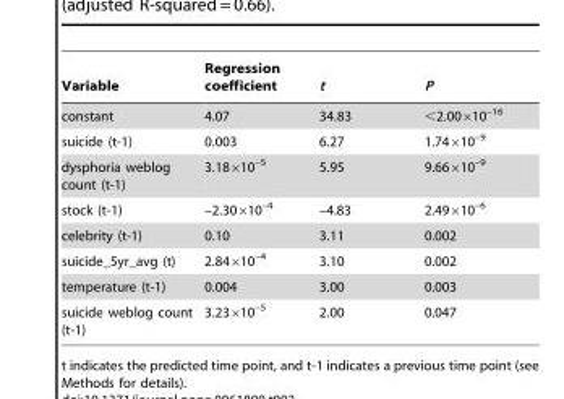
<table><thead><tr><td>Variable</td><td>Regression coefficient</td><td>t</td><td>P</td></tr></thead><tbody><tr><td>constant</td><td>4.07</td><td>34.83</td><td>&lt;2.00×10<sup>–16</sup></td></tr><tr><td>suicide (t-1)</td><td>0.003</td><td>6.27</td><td>1.74×10<sup>–9</sup></td></tr><tr><td>dysphoria weblog count (t-1)</td><td>3.18×10<sup>–5</sup></td><td>5.95</td><td>9.66×10<sup>–9</sup></td></tr><tr><td>stock (t-1)</td><td>–2.30×10<sup>–4</sup></td><td>–4.83</td><td>2.49×10<sup>–6</sup></td></tr><tr><td>celebrity (t-1)</td><td>0.10</td><td>3.11</td><td>0.002</td></tr><tr><td>suicide_5yr_avg (t)</td><td>2.84×10<sup>–4</sup></td><td>3.10</td><td>0.002</td></tr><tr><td>temperature (t-1)</td><td>0.004</td><td>3.00</td><td>0.003</td></tr><tr><td>suicide weblog count (t-1)</td><td>3.23×10<sup>–5</sup></td><td>2.00</td><td>0.047</td></tr></tbody></table>